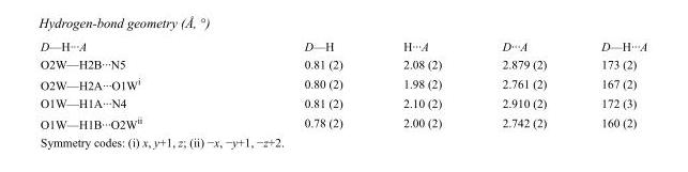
<table><tbody><tr><td>D—H···A</td><td>D—H</td><td>H···A</td><td>D···A</td><td>D—H···A</td></tr><tr><td>O2W—H2B···N5</td><td>0.81 (2)</td><td>2.08 (2)</td><td>2.879 (2)</td><td>173 (2)</td></tr><tr><td>O2W—H2A···O1W<sup>i</sup></td><td>0.80 (2)</td><td>1.98 (2)</td><td>2.761 (2)</td><td>167 (2)</td></tr><tr><td>O1W—H1A···N4</td><td>0.81 (2)</td><td>2.10 (2)</td><td>2.910 (2)</td><td>172 (3)</td></tr><tr><td>O1W—H1B···O2W<sup>ii</sup></td><td>0.78 (2)</td><td>2.00 (2)</td><td>2.742 (2)</td><td>160 (2)</td></tr></tbody></table>